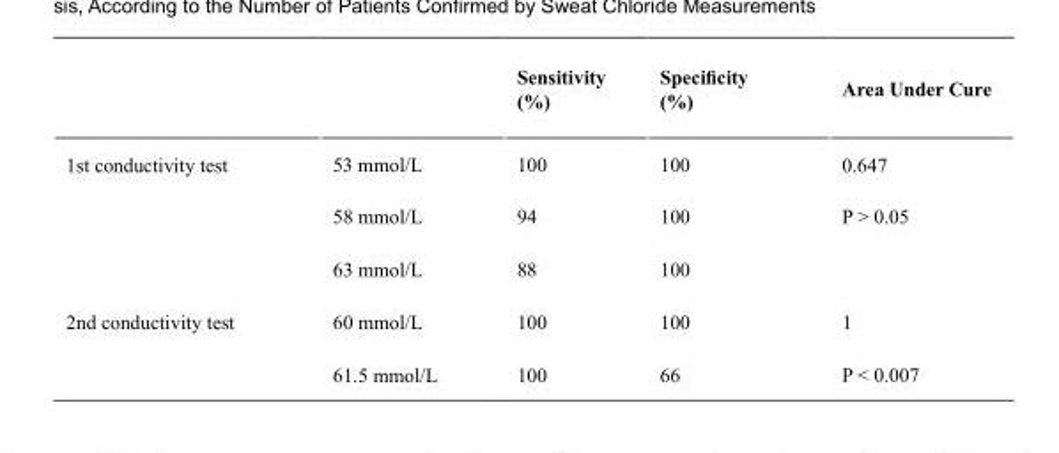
<table><thead><tr><td></td><td></td><td>Sensitivity (%)</td><td>Specificity (%)</td><td>Area Under Cure</td></tr></thead><tbody><tr><td rowspan="3">1st conductivity test</td><td>53 mmol/L</td><td>100</td><td>100</td><td rowspan="3">0.647 P &gt; 0.05</td></tr><tr><td>58 mmol/L</td><td>94</td><td>100</td></tr><tr><td>63 mmol/L</td><td>88</td><td>100</td></tr><tr><td rowspan="2">2nd conductivity test</td><td>60 mmol/L</td><td>100</td><td>100</td><td rowspan="2">1 P &lt; 0.007</td></tr><tr><td>61.5 mmol/L</td><td>100</td><td>66</td></tr></tbody></table>